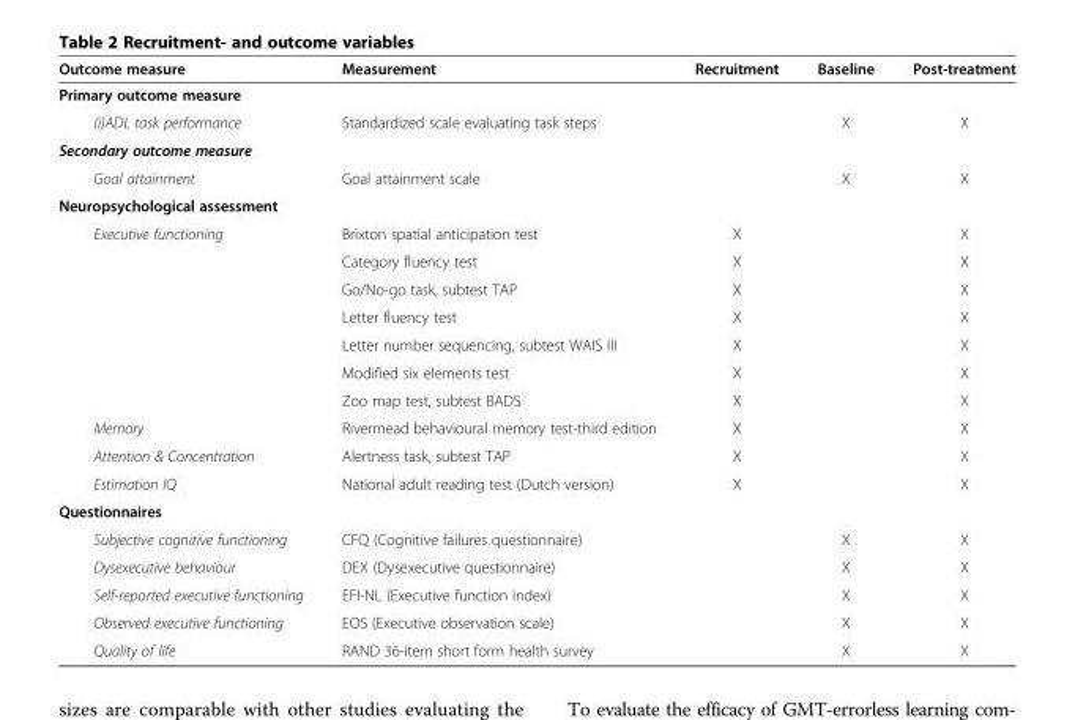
<table><thead><tr><td>Outcome measure</td><td>Measurement</td><td>Recruitment</td><td>Baseline</td><td>Post-treatment</td></tr></thead><tbody><tr><td colspan="5">Primary outcome measure</td></tr><tr><td>(i)ADL task performance</td><td>Standardized scale evaluating task steps</td><td></td><td>X</td><td>X</td></tr><tr><td colspan="5">Secondary outcome measure</td></tr><tr><td>Goal attainment</td><td>Goal attainment scale</td><td></td><td>X</td><td>X</td></tr><tr><td colspan="5">Neuropsychological assessment</td></tr><tr><td rowspan="7">Executive functioning</td><td>Brixton spatial anticipation test</td><td>X</td><td></td><td>X</td></tr><tr><td>Category fluency test</td><td>X</td><td></td><td>X</td></tr><tr><td>Go/No-go task, subtest TAP</td><td>X</td><td></td><td>X</td></tr><tr><td>Letter fluency test</td><td>X</td><td></td><td>X</td></tr><tr><td>Letter number sequencing, subtest WAIS III</td><td>X</td><td></td><td>X</td></tr><tr><td>Modified six elements test</td><td>X</td><td></td><td>X</td></tr><tr><td>Zoo map test, subtest BADS</td><td>X</td><td></td><td>X</td></tr><tr><td>Memory</td><td>Rivermead behavioural memory test-third edition</td><td>X</td><td></td><td>X</td></tr><tr><td>Attention &amp; Concentration</td><td>Alertness task, subtest TAP</td><td>X</td><td></td><td>X</td></tr><tr><td>Estimation IQ</td><td>National adult reading test (Dutch version)</td><td>X</td><td></td><td>X</td></tr><tr><td colspan="5">Questionnaires</td></tr><tr><td>Subjective cognitive functioning</td><td>CFQ (Cognitive failures questionnaire)</td><td></td><td>X</td><td>X</td></tr><tr><td>Dysexecutive behaviour</td><td>DEX (Dysexecutive questionnaire)</td><td></td><td>X</td><td>X</td></tr><tr><td>Self-reported executive functioning</td><td>EFI-NL (Executive function index)</td><td></td><td>X</td><td>X</td></tr><tr><td>Observed executive functioning</td><td>EOS (Executive observation scale)</td><td></td><td>X</td><td>X</td></tr><tr><td>Quality of life</td><td>RAND 36-item short form health survey</td><td></td><td>X</td><td>X</td></tr></tbody></table>